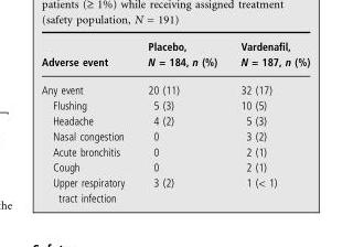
<table><thead><tr><td>Adverse event</td><td>Placebo, N = 184, n (%)</td><td>Vardenafil, N = 187, n (%)</td></tr></thead><tbody><tr><td>Any event</td><td>20 (11)</td><td>32 (17)</td></tr><tr><td>Flushing</td><td>5 (3)</td><td>10 (5)</td></tr><tr><td>Headache</td><td>4 (2)</td><td>5 (3)</td></tr><tr><td>Nasal congestion</td><td>0</td><td>3 (2)</td></tr><tr><td>Acute bronchitis</td><td>0</td><td>2 (1)</td></tr><tr><td>Cough</td><td>0</td><td>2 (1)</td></tr><tr><td>Upper respiratory tract infection</td><td>3 (2)</td><td>1 (&lt; 1)</td></tr></tbody></table>